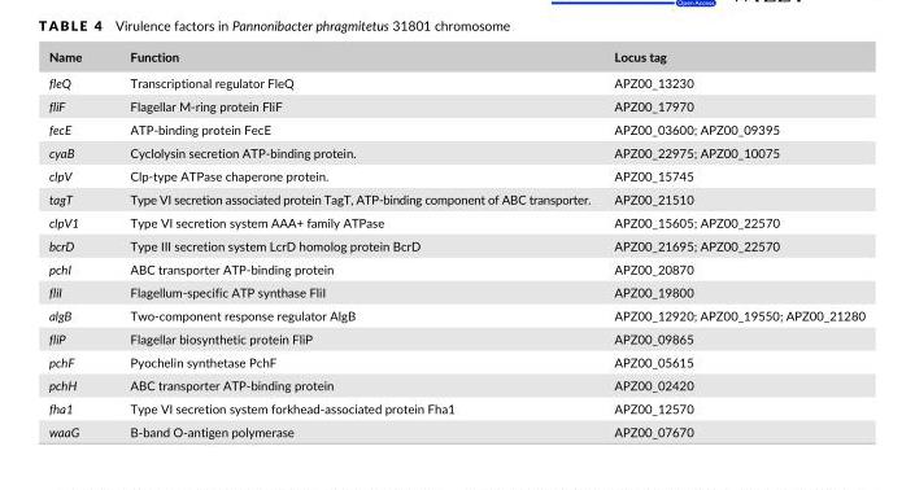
<table><thead><tr><td>Name</td><td>Function</td><td>Locus tag</td></tr></thead><tbody><tr><td>fleQ</td><td>Transcriptional regulator FleQ</td><td>APZ00_13230</td></tr><tr><td>fliF</td><td>Flagellar M- ring protein FliF</td><td>APZ00_17970</td></tr><tr><td>fecE</td><td>ATP- binding protein FecE</td><td>APZ00_03600; APZ00_09395</td></tr><tr><td>cyaB</td><td>Cyclolysin secretion ATP- binding protein.</td><td>APZ00_22975; APZ00_10075</td></tr><tr><td>clpV</td><td>Clp- type ATPase chaperone protein.</td><td>APZ00_15745</td></tr><tr><td>tagT</td><td>Type VI secretion associated protein TagT, ATP- binding component of ABC transporter.</td><td>APZ00_21510</td></tr><tr><td>clpV1</td><td>Type VI secretion system AAA+ family ATPase</td><td>APZ00_15605; APZ00_22570</td></tr><tr><td>bcrD</td><td>Type III secretion system LcrD homolog protein BcrD</td><td>APZ00_21695; APZ00_22570</td></tr><tr><td>pchI</td><td>ABC transporter ATP- binding protein</td><td>APZ00_20870</td></tr><tr><td>fliI</td><td>Flagellum- specific ATP synthase FliI</td><td>APZ00_19800</td></tr><tr><td>algB</td><td>Two- component response regulator AlgB</td><td>APZ00_12920; APZ00_19550; APZ00_21280</td></tr><tr><td>fliP</td><td>Flagellar biosynthetic protein FliP</td><td>APZ00_09865</td></tr><tr><td>pchF</td><td>Pyochelin synthetase PchF</td><td>APZ00_05615</td></tr><tr><td>pchH</td><td>ABC transporter ATP- binding protein</td><td>APZ00_02420</td></tr><tr><td>fha1</td><td>Type VI secretion system forkhead- associated protein Fha1</td><td>APZ00_12570</td></tr><tr><td>waaG</td><td>B- band O- antigen polymerase</td><td>APZ00_07670</td></tr></tbody></table>